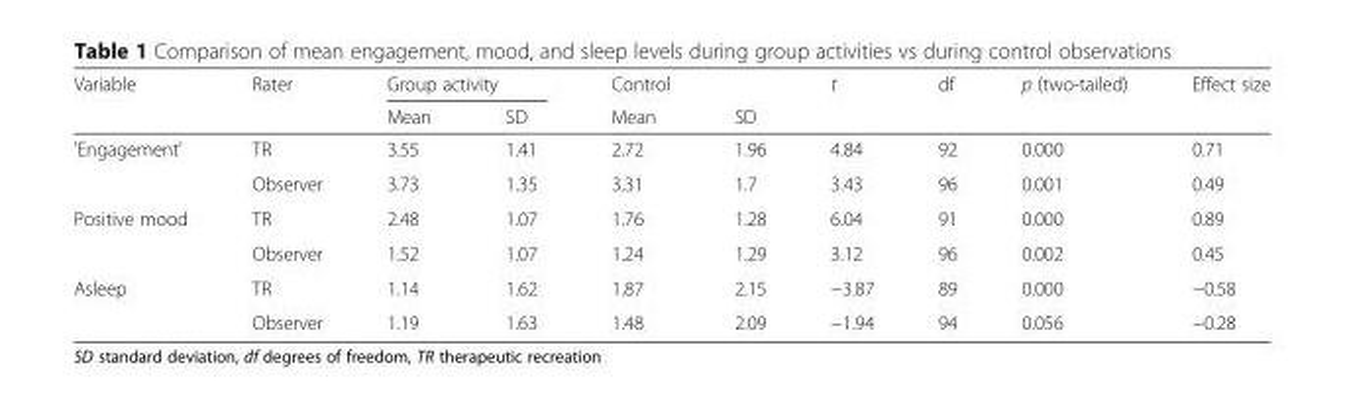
<table><thead><tr><td rowspan="2">Variable</td><td rowspan="2">Rater</td><td colspan="2">Group activity</td><td rowspan="2">Control Mean</td><td rowspan="2">SD</td><td rowspan="2">t</td><td rowspan="2">df</td><td rowspan="2">p (two-tailed)</td><td rowspan="2">Effect size</td></tr><tr><td>Mean</td><td>SD</td></tr></thead><tbody><tr><td rowspan="2">&#x27;Engagement&#x27;</td><td>TR</td><td>3.55</td><td>1.41</td><td>2.72</td><td>1.96</td><td>4.84</td><td>92</td><td>0.000</td><td>0.71</td></tr><tr><td>Observer</td><td>3.73</td><td>1.35</td><td>3.31</td><td>1.7</td><td>3.43</td><td>96</td><td>0.001</td><td>0.49</td></tr><tr><td rowspan="2">Positive mood</td><td>TR</td><td>2.48</td><td>1.07</td><td>1.76</td><td>1.28</td><td>6.04</td><td>91</td><td>0.000</td><td>0.89</td></tr><tr><td>Observer</td><td>1.52</td><td>1.07</td><td>1.24</td><td>1.29</td><td>3.12</td><td>96</td><td>0.002</td><td>0.45</td></tr><tr><td rowspan="2">Asleep</td><td>TR</td><td>1.14</td><td>1.62</td><td>1.87</td><td>2.15</td><td>−3.87</td><td>89</td><td>0.000</td><td>−0.58</td></tr><tr><td>Observer</td><td>1.19</td><td>1.63</td><td>1.48</td><td>2.09</td><td>−1.94</td><td>94</td><td>0.056</td><td>−0.28</td></tr></tbody></table>